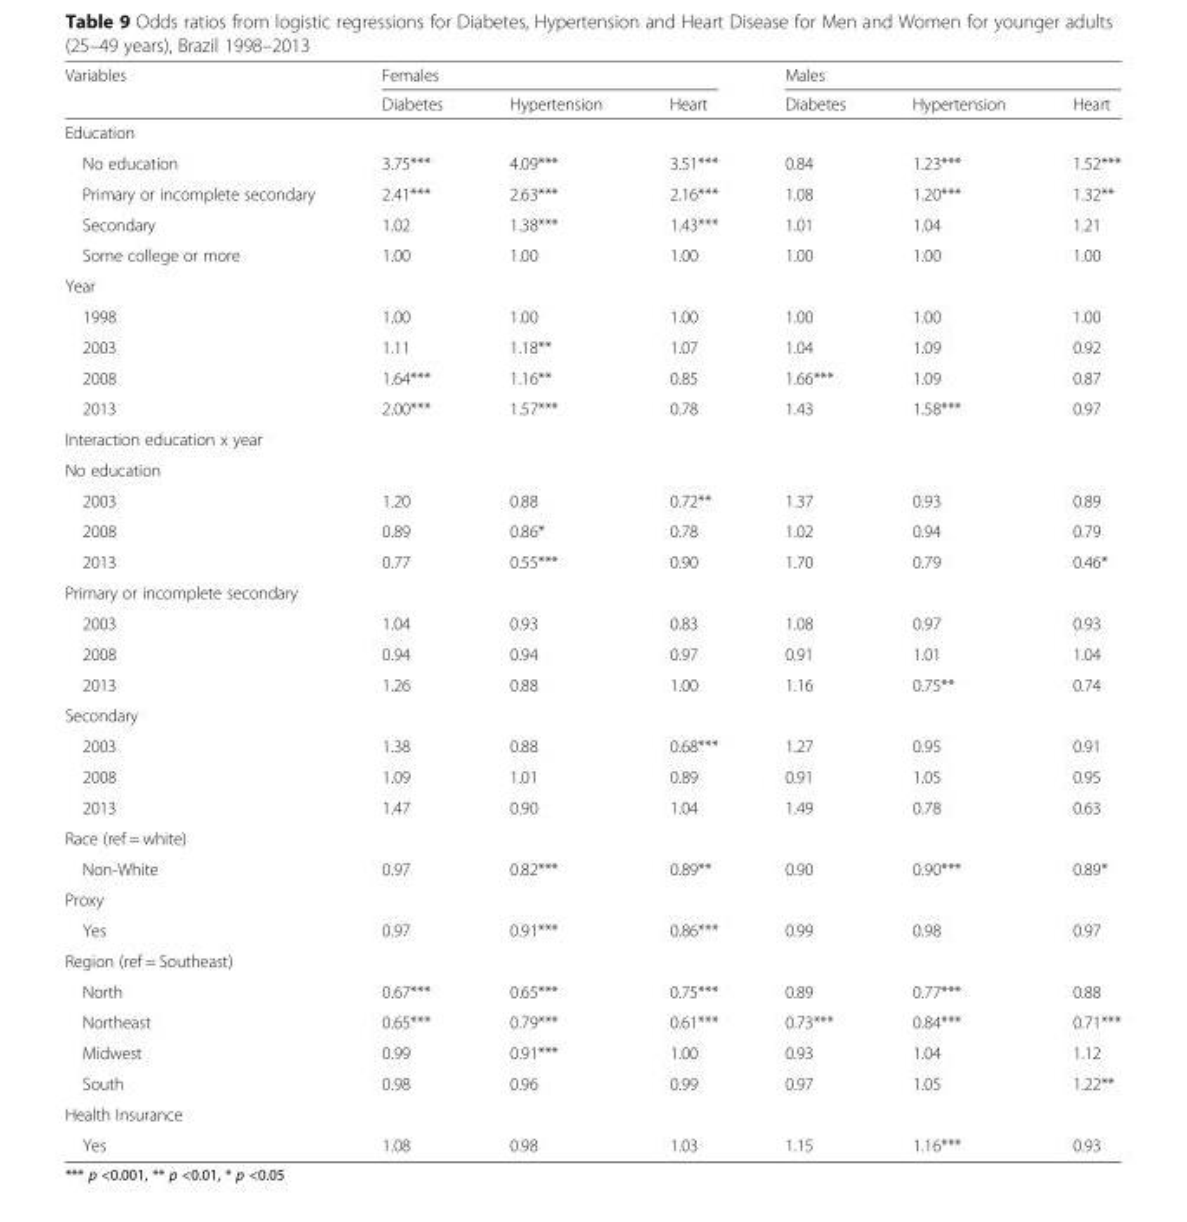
<table><thead><tr><td rowspan="2">Variables</td><td colspan="3">Females</td><td colspan="3">Males</td></tr><tr><td>Diabetes</td><td>Hypertension</td><td>Heart</td><td>Diabetes</td><td>Hypertension</td><td>Heart</td></tr></thead><tbody><tr><td colspan="7">Education</td></tr><tr><td>No education</td><td>3.75***</td><td>4.09***</td><td>3.51***</td><td>0.84</td><td>1.23***</td><td>1.52***</td></tr><tr><td>Primary or incomplete secondary</td><td>2.41***</td><td>2.63***</td><td>2.16***</td><td>1.08</td><td>1.20***</td><td>1.32**</td></tr><tr><td>Secondary</td><td>1.02</td><td>1.38***</td><td>1.43***</td><td>1.01</td><td>1.04</td><td>1.21</td></tr><tr><td>Some college or more</td><td>1.00</td><td>1.00</td><td>1.00</td><td>1.00</td><td>1.00</td><td>1.00</td></tr><tr><td colspan="7">Year</td></tr><tr><td>1998</td><td>1.00</td><td>1.00</td><td>1.00</td><td>1.00</td><td>1.00</td><td>1.00</td></tr><tr><td>2003</td><td>1.11</td><td>1.18**</td><td>1.07</td><td>1.04</td><td>1.09</td><td>0.92</td></tr><tr><td>2008</td><td>1.64***</td><td>1.16**</td><td>0.85</td><td>1.66***</td><td>1.09</td><td>0.87</td></tr><tr><td>2013</td><td>2.00***</td><td>1.57***</td><td>0.78</td><td>1.43</td><td>1.58***</td><td>0.97</td></tr><tr><td colspan="7">Interaction education x year</td></tr><tr><td colspan="7">No education</td></tr><tr><td>2003</td><td>1.20</td><td>0.88</td><td>0.72**</td><td>1.37</td><td>0.93</td><td>0.89</td></tr><tr><td>2008</td><td>0.89</td><td>0.86*</td><td>0.78</td><td>1.02</td><td>0.94</td><td>0.79</td></tr><tr><td>2013</td><td>0.77</td><td>0.55***</td><td>0.90</td><td>1.70</td><td>0.79</td><td>0.46*</td></tr><tr><td colspan="7">Primary or incomplete secondary</td></tr><tr><td>2003</td><td>1.04</td><td>0.93</td><td>0.83</td><td>1.08</td><td>0.97</td><td>0.93</td></tr><tr><td>2008</td><td>0.94</td><td>0.94</td><td>0.97</td><td>0.91</td><td>1.01</td><td>1.04</td></tr><tr><td>2013</td><td>1.26</td><td>0.88</td><td>1.00</td><td>1.16</td><td>0.75**</td><td>0.74</td></tr><tr><td colspan="7">Secondary</td></tr><tr><td>2003</td><td>1.38</td><td>0.88</td><td>0.68***</td><td>1.27</td><td>0.95</td><td>0.91</td></tr><tr><td>2008</td><td>1.09</td><td>1.01</td><td>0.89</td><td>0.91</td><td>1.05</td><td>0.95</td></tr><tr><td>2013</td><td>1.47</td><td>0.90</td><td>1.04</td><td>1.49</td><td>0.78</td><td>0.63</td></tr><tr><td colspan="7">Race (ref = white)</td></tr><tr><td>Non-White</td><td>0.97</td><td>0.82***</td><td>0.89**</td><td>0.90</td><td>0.90***</td><td>0.89*</td></tr><tr><td colspan="7">Proxy</td></tr><tr><td>Yes</td><td>0.97</td><td>0.91***</td><td>0.86***</td><td>0.99</td><td>0.98</td><td>0.97</td></tr><tr><td colspan="7">Region (ref = Southeast)</td></tr><tr><td>North</td><td>0.67***</td><td>0.65***</td><td>0.75***</td><td>0.89</td><td>0.77***</td><td>0.88</td></tr><tr><td>Northeast</td><td>0.65***</td><td>0.79***</td><td>0.61***</td><td>0.73***</td><td>0.84***</td><td>0.71***</td></tr><tr><td>Midwest</td><td>0.99</td><td>0.91***</td><td>1.00</td><td>0.93</td><td>1.04</td><td>1.12</td></tr><tr><td>South</td><td>0.98</td><td>0.96</td><td>0.99</td><td>0.97</td><td>1.05</td><td>1.22**</td></tr><tr><td colspan="7">Health Insurance</td></tr><tr><td>Yes</td><td>1.08</td><td>0.98</td><td>1.03</td><td>1.15</td><td>1.16***</td><td>0.93</td></tr></tbody></table>